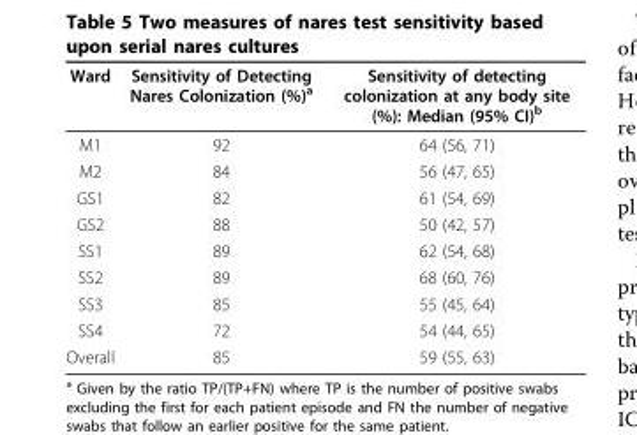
<table><thead><tr><td>Ward</td><td>Sensitivity of Detecting Nares Colonization (%)<sup>a</sup></td><td>Sensitivity of detecting colonization at any body site (%): Median (95% CI)<sup>b</sup></td></tr></thead><tbody><tr><td>M1</td><td>92</td><td>64 (56, 71)</td></tr><tr><td>M2</td><td>84</td><td>56 (47, 65)</td></tr><tr><td>GS1</td><td>82</td><td>61 (54, 69)</td></tr><tr><td>GS2</td><td>88</td><td>50 (42, 57)</td></tr><tr><td>SS1</td><td>89</td><td>62 (54, 68)</td></tr><tr><td>SS2</td><td>89</td><td>68 (60, 76)</td></tr><tr><td>SS3</td><td>85</td><td>55 (45, 64)</td></tr><tr><td>SS4</td><td>72</td><td>54 (44, 65)</td></tr><tr><td>Overall</td><td>85</td><td>59 (55, 63)</td></tr></tbody></table>